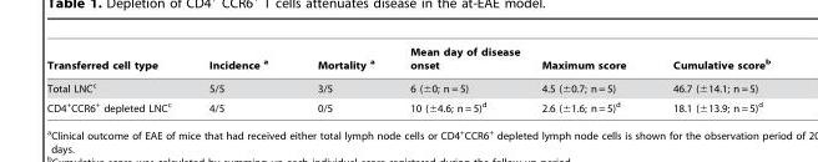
<table><thead><tr><td>Transferred cell type</td><td>Incidence a</td><td>Mortality a</td><td>Mean day of disease onset</td><td>Maximum score</td><td>Cumulative score<sup>b</sup></td></tr></thead><tbody><tr><td>Total LNC<sup>c</sup></td><td>5/5</td><td>3/5</td><td>6 (±0; n = 5)</td><td>4.5 (±0.7; n = 5)</td><td>46.7 (±14.1; n = 5)</td></tr><tr><td>CD4<sup>+</sup>CCR6<sup>+</sup> depleted LNC<sup>c</sup></td><td>4/5</td><td>0/5</td><td>10 (±4.6; n = 5)<sup>d</sup></td><td>2.6 (±1.6; n = 5)<sup>d</sup></td><td>18.1 (±13.9; n = 5)<sup>d</sup></td></tr></tbody></table>